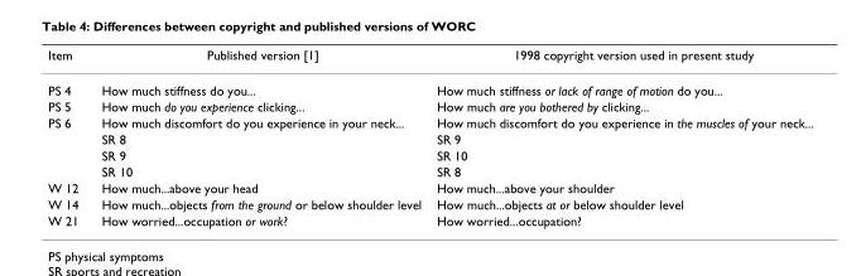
<table><thead><tr><td>Item</td><td>Published version [1]</td><td>1998 copyright version used in present study</td></tr></thead><tbody><tr><td>PS 4</td><td>How much stiffness do you...</td><td>How much stiffness or lack of range of motion do you...</td></tr><tr><td>PS 5</td><td>How much do you experience clicking...</td><td>How much are you bothered by clicking...</td></tr><tr><td rowspan="4">PS 6</td><td>How much discomfort do you experience in your neck...</td><td>How much discomfort do you experience in the muscles of your neck...</td></tr><tr><td>SR 8</td><td>SR 9</td></tr><tr><td>SR 9</td><td>SR 10</td></tr><tr><td>SR 10</td><td>SR 8</td></tr><tr><td>W 12</td><td>How much...above your head</td><td>How much...above your shoulder</td></tr><tr><td>W 14</td><td>How much...objects from the ground or below shoulder level</td><td>How much...objects at or below shoulder level</td></tr><tr><td>W 21</td><td>How worried...occupation or work?</td><td>How worried...occupation?</td></tr></tbody></table>